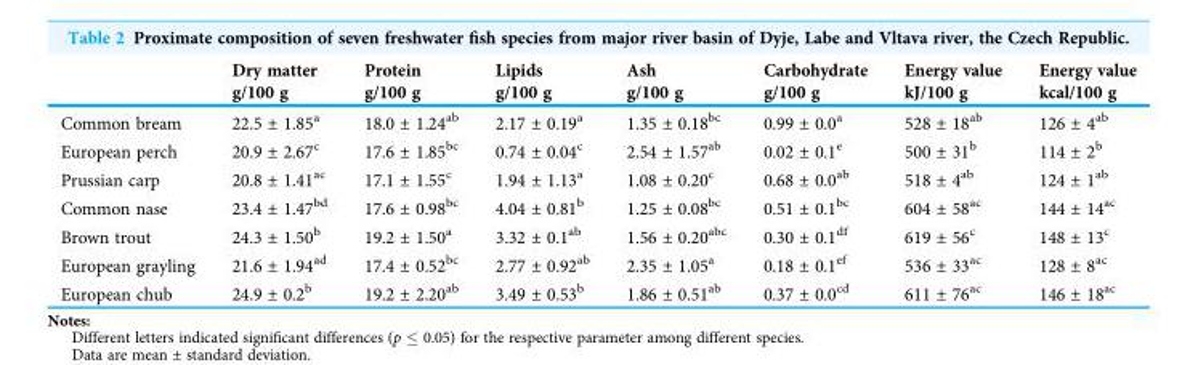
<table><thead><tr><td rowspan="2"></td><td rowspan="2">Dry matter g/100 g</td><td rowspan="2">Protein g/100 g</td><td rowspan="2">Lipids g/100 g</td><td rowspan="2">Ash g/100 g</td><td rowspan="2">Carbohydrate g/100 g</td><td rowspan="2">Energy value kJ/100 g</td><td rowspan="2">Energy value kcal/100 g</td></tr><tr></tr></thead><tbody><tr><td>Common bream</td><td>22.5 ± 1.85<sup>a</sup></td><td>18.0 ± 1.24<sup>ab</sup></td><td>2.17 ± 0.19<sup>a</sup></td><td>1.35 ± 0.18<sup>bc</sup></td><td>0.99 ± 0.0<sup>a</sup></td><td>528 ± 18<sup>ab</sup></td><td>126 ± 4<sup>ab</sup></td></tr><tr><td>European perch</td><td>20.9 ± 2.67<sup>c</sup></td><td>17.6 ± 1.85<sup>bc</sup></td><td>0.74 ± 0.04<sup>c</sup></td><td>2.54 ± 1.57<sup>ab</sup></td><td>0.02 ± 0.1<sup>e</sup></td><td>500 ± 31<sup>b</sup></td><td>114 ± 2<sup>b</sup></td></tr><tr><td>Prussian carp</td><td>20.8 ± 1.41<sup>ac</sup></td><td>17.1 ± 1.55<sup>c</sup></td><td>1.94 ± 1.13<sup>a</sup></td><td>1.08 ± 0.20<sup>c</sup></td><td>0.68 ± 0.0<sup>ab</sup></td><td>518 ± 4<sup>ab</sup></td><td>124 ± 1<sup>ab</sup></td></tr><tr><td>Common nase</td><td>23.4 ± 1.47<sup>bd</sup></td><td>17.6 ± 0.98<sup>bc</sup></td><td>4.04 ± 0.81<sup>b</sup></td><td>1.25 ± 0.08<sup>bc</sup></td><td>0.51 ± 0.1<sup>bc</sup></td><td>604 ± 58<sup>ac</sup></td><td>144 ± 14<sup>ac</sup></td></tr><tr><td>Brown trout</td><td>24.3 ± 1.50<sup>b</sup></td><td>19.2 ± 1.50<sup>a</sup></td><td>3.32 ± 0.1<sup>ab</sup></td><td>1.56 ± 0.20<sup>abc</sup></td><td>0.30 ± 0.1<sup>df</sup></td><td>619 ± 56<sup>c</sup></td><td>148 ± 13<sup>c</sup></td></tr><tr><td>European grayling</td><td>21.6 ± 1.94<sup>ad</sup></td><td>17.4 ± 0.52<sup>bc</sup></td><td>2.77 ± 0.92<sup>ab</sup></td><td>2.35 ± 1.05<sup>a</sup></td><td>0.18 ± 0.1<sup>ef</sup></td><td>536 ± 33<sup>ac</sup></td><td>128 ± 8<sup>ac</sup></td></tr><tr><td>European chub</td><td>24.9 ± 0.2<sup>b</sup></td><td>19.2 ± 2.20<sup>ab</sup></td><td>3.49 ± 0.53<sup>b</sup></td><td>1.86 ± 0.51<sup>ab</sup></td><td>0.37 ± 0.0<sup>cd</sup></td><td>611 ± 76<sup>ac</sup></td><td>146 ± 18<sup>ac</sup></td></tr></tbody></table>